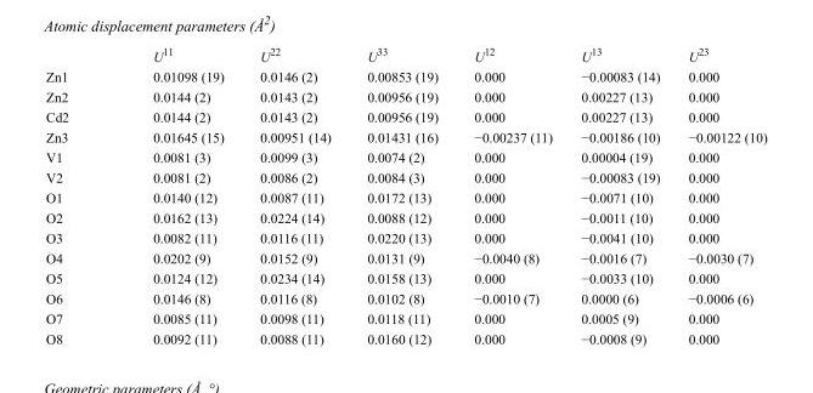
<table><thead><tr><td></td><td>U<sup>11</sup></td><td>U<sup>22</sup></td><td>U<sup>33</sup></td><td>U<sup>12</sup></td><td>U<sup>13</sup></td><td>U<sup>23</sup></td></tr></thead><tbody><tr><td>Zn1</td><td>0.01098 (19)</td><td>0.0146 (2)</td><td>0.00853 (19)</td><td>0.000</td><td>−0.00083 (14)</td><td>0.000</td></tr><tr><td>Zn2</td><td>0.0144 (2)</td><td>0.0143 (2)</td><td>0.00956 (19)</td><td>0.000</td><td>0.00227 (13)</td><td>0.000</td></tr><tr><td>Cd2</td><td>0.0144 (2)</td><td>0.0143 (2)</td><td>0.00956 (19)</td><td>0.000</td><td>0.00227 (13)</td><td>0.000</td></tr><tr><td>Zn3</td><td>0.01645 (15)</td><td>0.00951 (14)</td><td>0.01431 (16)</td><td>−0.00237 (11)</td><td>−0.00186 (10)</td><td>−0.00122 (10)</td></tr><tr><td>V1</td><td>0.0081 (3)</td><td>0.0099 (3)</td><td>0.0074 (2)</td><td>0.000</td><td>0.00004 (19)</td><td>0.000</td></tr><tr><td>V2</td><td>0.0081 (2)</td><td>0.0086 (2)</td><td>0.0084 (3)</td><td>0.000</td><td>−0.00083 (19)</td><td>0.000</td></tr><tr><td>O1</td><td>0.0140 (12)</td><td>0.0087 (11)</td><td>0.0172 (13)</td><td>0.000</td><td>−0.0071 (10)</td><td>0.000</td></tr><tr><td>O2</td><td>0.0162 (13)</td><td>0.0224 (14)</td><td>0.0088 (12)</td><td>0.000</td><td>−0.0011 (10)</td><td>0.000</td></tr><tr><td>O3</td><td>0.0082 (11)</td><td>0.0116 (11)</td><td>0.0220 (13)</td><td>0.000</td><td>−0.0041 (10)</td><td>0.000</td></tr><tr><td>O4</td><td>0.0202 (9)</td><td>0.0152 (9)</td><td>0.0131 (9)</td><td>−0.0040 (8)</td><td>−0.0016 (7)</td><td>−0.0030 (7)</td></tr><tr><td>O5</td><td>0.0124 (12)</td><td>0.0234 (14)</td><td>0.0158 (13)</td><td>0.000</td><td>−0.0033 (10)</td><td>0.000</td></tr><tr><td>O6</td><td>0.0146 (8)</td><td>0.0116 (8)</td><td>0.0102 (8)</td><td>−0.0010 (7)</td><td>0.0000 (6)</td><td>−0.0006 (6)</td></tr><tr><td>O7</td><td>0.0085 (11)</td><td>0.0098 (11)</td><td>0.0118 (11)</td><td>0.000</td><td>0.0005 (9)</td><td>0.000</td></tr><tr><td>O8</td><td>0.0092 (11)</td><td>0.0088 (11)</td><td>0.0160 (12)</td><td>0.000</td><td>−0.0008 (9)</td><td>0.000</td></tr></tbody></table>